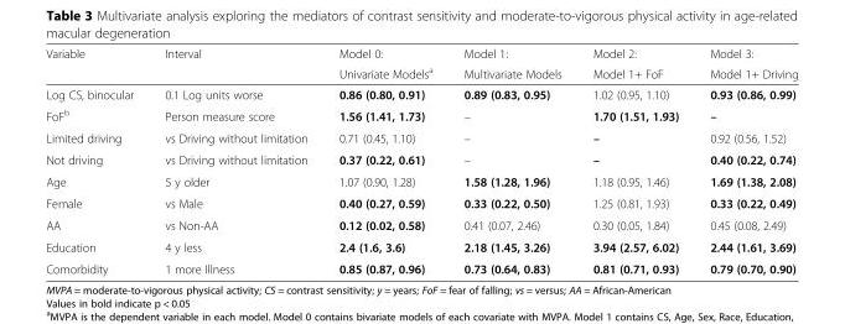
<table><thead><tr><td rowspan="2">Variable</td><td rowspan="2">Interval</td><td rowspan="2">Model 0: Univariate Models<sup>a</sup></td><td rowspan="2">Model 1: Multivariate Models</td><td rowspan="2">Model 2: Model 1+ FoF</td><td rowspan="2">Model 3: Model 1+ Driving</td></tr><tr></tr></thead><tbody><tr><td>Log CS, binocular</td><td>0.1 Log units worse</td><td>0.86 (0.80, 0.91)</td><td>0.89 (0.83, 0.95)</td><td>1.02 (0.95, 1.10)</td><td>0.93 (0.86, 0.99)</td></tr><tr><td>FoF<sup>b</sup></td><td>Person measure score</td><td>1.56 (1.41, 1.73)</td><td>–</td><td>1.70 (1.51, 1.93)</td><td>–</td></tr><tr><td>Limited driving</td><td>vs Driving without limitation</td><td>0.71 (0.45, 1.10)</td><td>–</td><td>–</td><td>0.92 (0.56, 1.52)</td></tr><tr><td>Not driving</td><td>vs Driving without limitation</td><td>0.37 (0.22, 0.61)</td><td>–</td><td>–</td><td>0.40 (0.22, 0.74)</td></tr><tr><td>Age</td><td>5 y older</td><td>1.07 (0.90, 1.28)</td><td>1.58 (1.28, 1.96)</td><td>1.18 (0.95, 1.46)</td><td>1.69 (1.38, 2.08)</td></tr><tr><td>Female</td><td>vs Male</td><td>0.40 (0.27, 0.59)</td><td>0.33 (0.22, 0.50)</td><td>1.25 (0.81, 1.93)</td><td>0.33 (0.22, 0.49)</td></tr><tr><td>AA</td><td>vs Non-AA</td><td>0.12 (0.02, 0.58)</td><td>0.41 (0.07, 2.46)</td><td>0.30 (0.05, 1.84)</td><td>0.45 (0.08, 2.49)</td></tr><tr><td>Education</td><td>4 y less</td><td>2.4 (1.6, 3.6)</td><td>2.18 (1.45, 3.26)</td><td>3.94 (2.57, 6.02)</td><td>2.44 (1.61, 3.69)</td></tr><tr><td>Comorbidity</td><td>1 more Illness</td><td>0.85 (0.87, 0.96)</td><td>0.73 (0.64, 0.83)</td><td>0.81 (0.71, 0.93)</td><td>0.79 (0.70, 0.90)</td></tr></tbody></table>